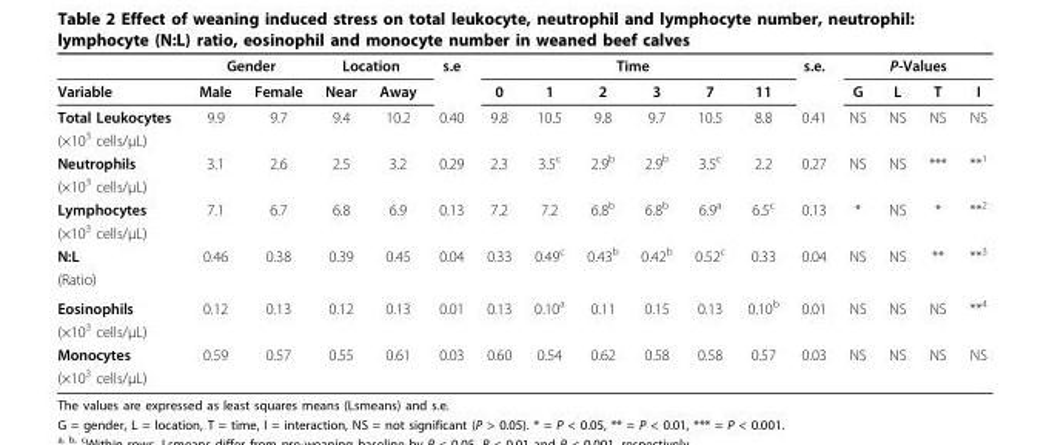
<table><thead><tr><td rowspan="2">Variable</td><td colspan="2">Gender</td><td colspan="2">Location</td><td rowspan="2">s.e</td><td colspan="6">Time</td><td rowspan="2">s.e.</td><td colspan="4">P-Values</td></tr><tr><td>Male</td><td>Female</td><td>Near</td><td>Away</td><td>0</td><td>1</td><td>2</td><td>3</td><td>7</td><td>11</td><td>G</td><td>L</td><td>T</td><td>I</td></tr></thead><tbody><tr><td>Total Leukocytes</td><td>9.9</td><td>9.7</td><td>9.4</td><td>10.2</td><td>0.40</td><td>9.8</td><td>10.5</td><td>9.8</td><td>9.7</td><td>10.5</td><td>8.8</td><td>0.41</td><td>NS</td><td>NS</td><td>NS</td><td>NS</td></tr><tr><td colspan="17">(×10<sup>3</sup> cells/μL)</td></tr><tr><td>Neutrophils</td><td>3.1</td><td>2.6</td><td>2.5</td><td>3.2</td><td>0.29</td><td>2.3</td><td>3.5<sup>c</sup></td><td>2.9<sup>b</sup></td><td>2.9<sup>b</sup></td><td>3.5<sup>c</sup></td><td>2.2</td><td>0.27</td><td>NS</td><td>NS</td><td>***</td><td>**<sup>1</sup></td></tr><tr><td colspan="17">(×10<sup>3</sup> cells/μL)</td></tr><tr><td>Lymphocytes</td><td>7.1</td><td>6.7</td><td>6.8</td><td>6.9</td><td>0.13</td><td>7.2</td><td>7.2</td><td>6.8<sup>b</sup></td><td>6.8<sup>b</sup></td><td>6.9<sup>a</sup></td><td>6.5<sup>c</sup></td><td>0.13</td><td>*</td><td>NS</td><td>*</td><td>**<sup>2</sup></td></tr><tr><td colspan="17">(×10<sup>3</sup> cells/μL)</td></tr><tr><td>N:L</td><td>0.46</td><td>0.38</td><td>0.39</td><td>0.45</td><td>0.04</td><td>0.33</td><td>0.49<sup>c</sup></td><td>0.43<sup>b</sup></td><td>0.42<sup>b</sup></td><td>0.52<sup>c</sup></td><td>0.33</td><td>0.04</td><td>NS</td><td>NS</td><td>**</td><td>**<sup>3</sup></td></tr><tr><td colspan="17">(Ratio)</td></tr><tr><td>Eosinophils</td><td>0.12</td><td>0.13</td><td>0.12</td><td>0.13</td><td>0.01</td><td>0.13</td><td>0.10<sup>a</sup></td><td>0.11</td><td>0.15</td><td>0.13</td><td>0.10<sup>b</sup></td><td>0.01</td><td>NS</td><td>NS</td><td>NS</td><td>**<sup>4</sup></td></tr><tr><td colspan="17">(×10<sup>3</sup> cells/μL)</td></tr><tr><td>Monocytes</td><td>0.59</td><td>0.57</td><td>0.55</td><td>0.61</td><td>0.03</td><td>0.60</td><td>0.54</td><td>0.62</td><td>0.58</td><td>0.58</td><td>0.57</td><td>0.03</td><td>NS</td><td>NS</td><td>NS</td><td>NS</td></tr><tr><td>(×10<sup>3</sup> cells/μL)</td><td></td><td></td><td></td><td></td><td></td><td></td><td></td><td></td><td></td><td></td><td></td><td></td><td></td><td></td><td></td><td></td></tr></tbody></table>